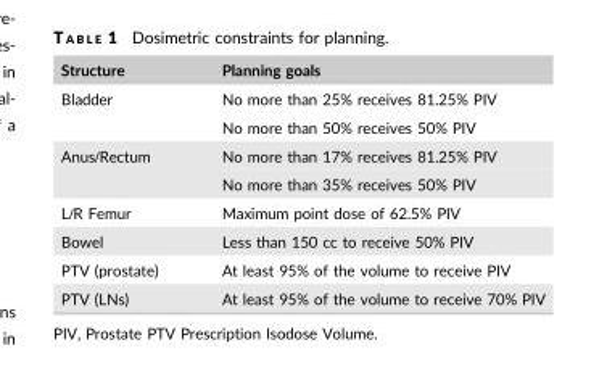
<table><thead><tr><td>Structure</td><td>Planning goals</td></tr></thead><tbody><tr><td rowspan="2">Bladder</td><td>No more than 25% receives 81.25% PIV</td></tr><tr><td>No more than 50% receives 50% PIV</td></tr><tr><td rowspan="2">Anus/Rectum</td><td>No more than 17% receives 81.25% PIV</td></tr><tr><td>No more than 35% receives 50% PIV</td></tr><tr><td>L/R Femur</td><td>Maximum point dose of 62.5% PIV</td></tr><tr><td>Bowel</td><td>Less than 150 cc to receive 50% PIV</td></tr><tr><td>PTV (prostate)</td><td>At least 95% of the volume to receive PIV</td></tr><tr><td>PTV (LNs)</td><td>At least 95% of the volume to receive 70% PIV</td></tr></tbody></table>